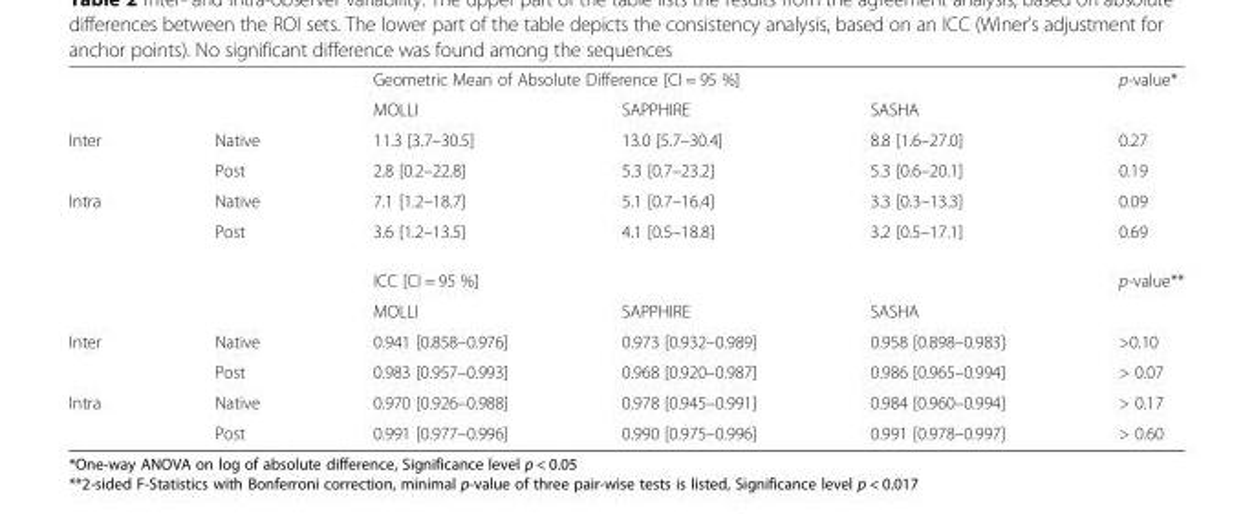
<table><thead><tr><td rowspan="2"></td><td rowspan="2"></td><td colspan="3">Geometric Mean of Absolute Difference [CI = 95 %]</td><td rowspan="2">p-value*</td></tr><tr><td>MOLLI</td><td>SAPPHIRE</td><td>SASHA</td></tr></thead><tbody><tr><td rowspan="2">Inter</td><td>Native</td><td>11.3 [3.7–30.5]</td><td>13.0 [5.7–30.4]</td><td>8.8 [1.6–27.0]</td><td>0.27</td></tr><tr><td>Post</td><td>2.8 [0.2–22.8]</td><td>5.3 [0.7–23.2]</td><td>5.3 [0.6–20.1]</td><td>0.19</td></tr><tr><td rowspan="2">Intra</td><td>Native</td><td>7.1 [1.2–18.7]</td><td>5.1 [0.7–16.4]</td><td>3.3 [0.3–13.3]</td><td>0.09</td></tr><tr><td>Post</td><td>3.6 [1.2–13.5]</td><td>4.1 [0.5–18.8]</td><td>3.2 [0.5–17.1]</td><td>0.69</td></tr><tr><td rowspan="2" colspan="2"></td><td colspan="3">ICC [CI = 95 %]</td><td rowspan="2">p-value**</td></tr><tr><td>MOLLI</td><td>SAPPHIRE</td><td>SASHA</td></tr><tr><td rowspan="2">Inter</td><td>Native</td><td>0.941 [0.858–0.976]</td><td>0.973 [0.932–0.989]</td><td>0.958 [0.898–0.983]</td><td>&gt;0.10</td></tr><tr><td>Post</td><td>0.983 [0.957–0.993]</td><td>0.968 [0.920–0.987]</td><td>0.986 [0.965–0.994]</td><td>&gt; 0.07</td></tr><tr><td rowspan="2">Intra</td><td>Native</td><td>0.970 [0.926–0.988]</td><td>0.978 [0.945–0.991]</td><td>0.984 [0.960–0.994]</td><td>&gt; 0.17</td></tr><tr><td>Post</td><td>0.991 [0.977–0.996]</td><td>0.990 [0.975–0.996]</td><td>0.991 [0.978–0.997]</td><td>&gt; 0.60</td></tr></tbody></table>